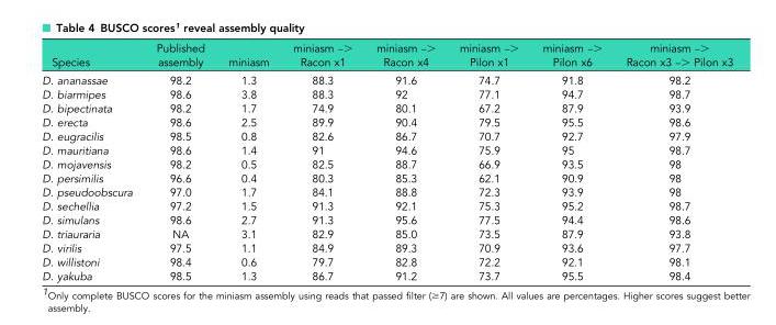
<table><thead><tr><td>Species</td><td>Published assembly</td><td>miniasm</td><td>miniasm –&gt; Racon x1</td><td>miniasm –&gt; Racon x4</td><td>miniasm –&gt; Pilon x1</td><td>miniasm –&gt; Pilon x6</td><td>miniasm –&gt; Racon x3 –&gt; Pilon x3</td></tr></thead><tbody><tr><td>D. ananassae</td><td>98.2</td><td>1.3</td><td>88.3</td><td>91.6</td><td>74.7</td><td>91.8</td><td>98.2</td></tr><tr><td>D. biarmipes</td><td>98.6</td><td>3.8</td><td>88.3</td><td>92</td><td>77.1</td><td>94.7</td><td>98.7</td></tr><tr><td>D. bipectinata</td><td>98.2</td><td>1.7</td><td>74.9</td><td>80.1</td><td>67.2</td><td>87.9</td><td>93.9</td></tr><tr><td>D. erecta</td><td>98.6</td><td>2.5</td><td>89.9</td><td>90.4</td><td>79.5</td><td>95.5</td><td>98.6</td></tr><tr><td>D. eugracilis</td><td>98.5</td><td>0.8</td><td>82.6</td><td>86.7</td><td>70.7</td><td>92.7</td><td>97.9</td></tr><tr><td>D. mauritiana</td><td>98.6</td><td>1.4</td><td>91</td><td>94.6</td><td>75.9</td><td>95</td><td>98.7</td></tr><tr><td>D. mojavensis</td><td>98.2</td><td>0.5</td><td>82.5</td><td>88.7</td><td>66.9</td><td>93.5</td><td>98</td></tr><tr><td>D. persimilis</td><td>96.6</td><td>0.4</td><td>80.3</td><td>85.3</td><td>62.1</td><td>90.9</td><td>98</td></tr><tr><td>D. pseudoobscura</td><td>97.0</td><td>1.7</td><td>84.1</td><td>88.8</td><td>72.3</td><td>93.9</td><td>98</td></tr><tr><td>D. sechellia</td><td>97.2</td><td>1.5</td><td>91.3</td><td>92.1</td><td>75.3</td><td>95.2</td><td>98.7</td></tr><tr><td>D. simulans</td><td>98.6</td><td>2.7</td><td>91.3</td><td>95.6</td><td>77.5</td><td>94.4</td><td>98.6</td></tr><tr><td>D. triauraria</td><td>NA</td><td>3.1</td><td>82.9</td><td>85.0</td><td>73.5</td><td>87.9</td><td>93.8</td></tr><tr><td>D. virilis</td><td>97.5</td><td>1.1</td><td>84.9</td><td>89.3</td><td>70.9</td><td>93.6</td><td>97.7</td></tr><tr><td>D. willistoni</td><td>98.4</td><td>0.6</td><td>79.7</td><td>82.8</td><td>72.2</td><td>92.1</td><td>98.1</td></tr><tr><td>D. yakuba</td><td>98.5</td><td>1.3</td><td>86.7</td><td>91.2</td><td>73.7</td><td>95.5</td><td>98.4</td></tr></tbody></table>